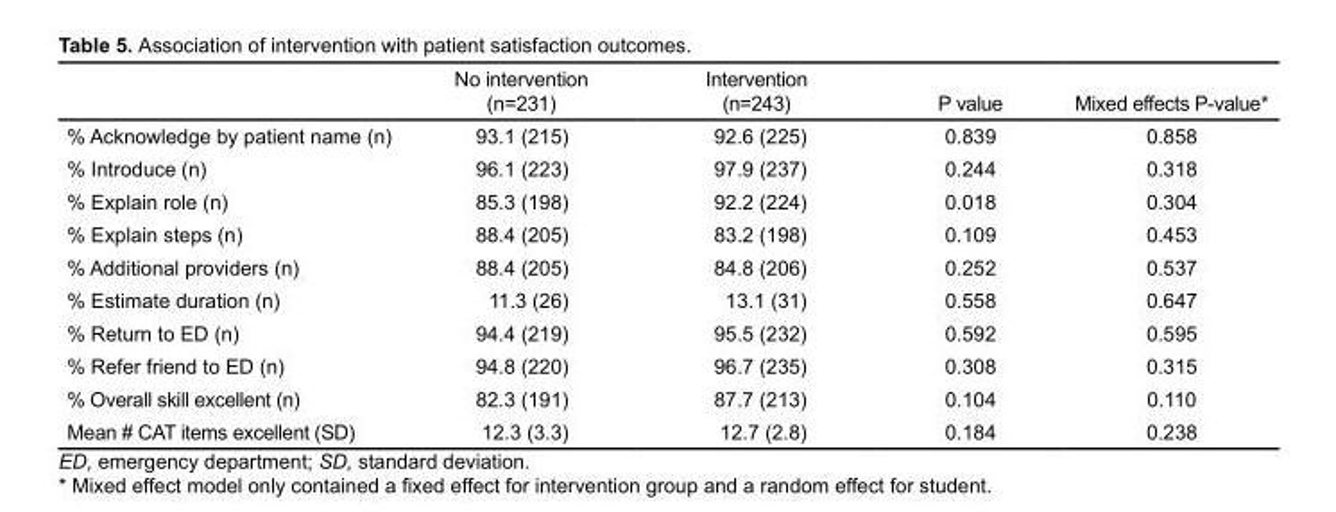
<table><thead><tr><td></td><td>No intervention (n=231)</td><td>Intervention (n=243)</td><td>P value</td><td>Mixed effects P-value*</td></tr></thead><tbody><tr><td>% Acknowledge by patient name (n)</td><td>93.1 (215)</td><td>92.6 (225)</td><td>0.839</td><td>0.858</td></tr><tr><td>% Introduce (n)</td><td>96.1 (223)</td><td>97.9 (237)</td><td>0.244</td><td>0.318</td></tr><tr><td>% Explain role (n)</td><td>85.3 (198)</td><td>92.2 (224)</td><td>0.018</td><td>0.304</td></tr><tr><td>% Explain steps (n)</td><td>88.4 (205)</td><td>83.2 (198)</td><td>0.109</td><td>0.453</td></tr><tr><td>% Additional providers (n)</td><td>88.4 (205)</td><td>84.8 (206)</td><td>0.252</td><td>0.537</td></tr><tr><td>% Estimate duration (n)</td><td>11.3 (26)</td><td>13.1 (31)</td><td>0.558</td><td>0.647</td></tr><tr><td>% Return to ED (n)</td><td>94.4 (219)</td><td>95.5 (232)</td><td>0.592</td><td>0.595</td></tr><tr><td>% Refer friend to ED (n)</td><td>94.8 (220)</td><td>96.7 (235)</td><td>0.308</td><td>0.315</td></tr><tr><td>% Overall skill excellent (n)</td><td>82.3 (191)</td><td>87.7 (213)</td><td>0.104</td><td>0.110</td></tr><tr><td>Mean # CAT items excellent (SD)</td><td>12.3 (3.3)</td><td>12.7 (2.8)</td><td>0.184</td><td>0.238</td></tr></tbody></table>